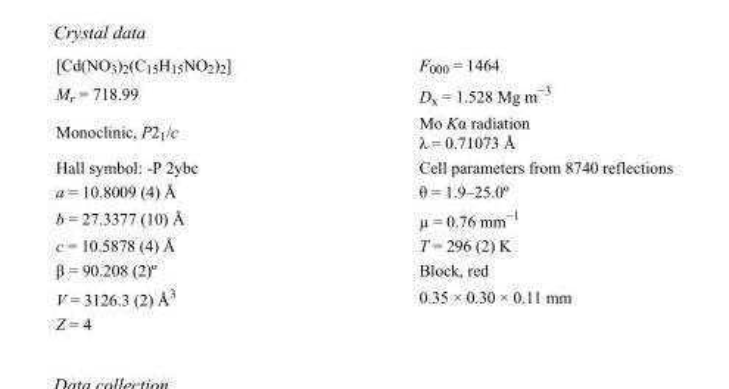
<table><tbody><tr><td>[Cd(NO<sub>3</sub>)<sub>2</sub>(C<sub>15</sub>H<sub>15</sub>NO<sub>2</sub>)<sub>2</sub>]</td><td>F000 = 1464</td></tr><tr><td>M<sub>r</sub> = 718.99</td><td>D<sub>x</sub> = 1.528 Mg m<sup>−3</sup></td></tr><tr><td>Monoclinic, P2<sub>1</sub>/c</td><td>Mo Kα radiation λ = 0.71073 Å</td></tr><tr><td>Hall symbol: -P 2ybc</td><td>Cell parameters from 8740 reflections</td></tr><tr><td>a = 10.8009 (4) Å</td><td>θ = 1.9–25.0º</td></tr><tr><td>b = 27.3377 (10) Å</td><td>µ = 0.76 mm<sup>−1</sup></td></tr><tr><td>c = 10.5878 (4) Å</td><td>T = 296 (2) K</td></tr><tr><td>β = 90.208 (2)º</td><td>Block, red</td></tr><tr><td>V = 3126.3 (2) Å<sup>3</sup></td><td>0.35 × 0.30 × 0.11 mm</td></tr><tr><td>Z = 4</td><td></td></tr></tbody></table>